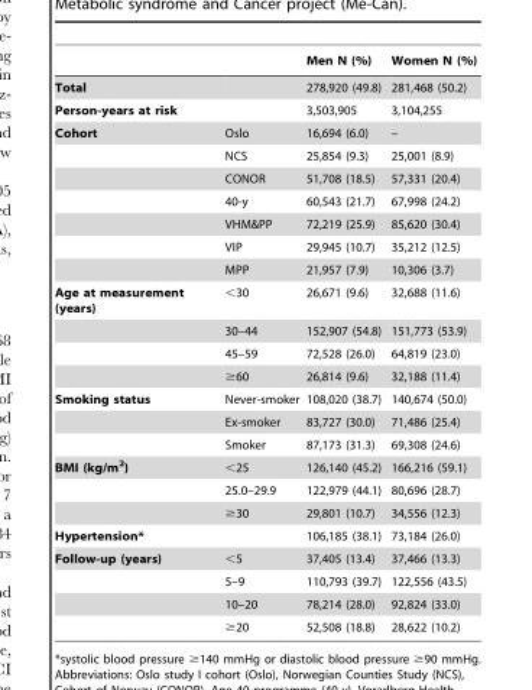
<table><thead><tr><td></td><td></td><td>Men N (%)</td><td>Women N (%)</td></tr></thead><tbody><tr><td>Total</td><td></td><td>278,920 (49.8)</td><td>281,468 (50.2)</td></tr><tr><td>Person-years at risk</td><td></td><td>3,503,905</td><td>3,104,255</td></tr><tr><td rowspan="7">Cohort</td><td>Oslo</td><td>16,694 (6.0)</td><td>–</td></tr><tr><td>NCS</td><td>25,854 (9.3)</td><td>25,001 (8.9)</td></tr><tr><td>CONOR</td><td>51,708 (18.5)</td><td>57,331 (20.4)</td></tr><tr><td>40-y</td><td>60,543 (21.7)</td><td>67,998 (24.2)</td></tr><tr><td>VHM&amp;PP</td><td>72,219 (25.9)</td><td>85,620 (30.4)</td></tr><tr><td>VIP</td><td>29,945 (10.7)</td><td>35,212 (12.5)</td></tr><tr><td>MPP</td><td>21,957 (7.9)</td><td>10,306 (3.7)</td></tr><tr><td rowspan="4">Age at measurement (years)</td><td>&lt;30</td><td>26,671 (9.6)</td><td>32,688 (11.6)</td></tr><tr><td>30–44</td><td>152,907 (54.8)</td><td>151,773 (53.9)</td></tr><tr><td>45–59</td><td>72,528 (26.0)</td><td>64,819 (23.0)</td></tr><tr><td>≥60</td><td>26,814 (9.6)</td><td>32,188 (11.4)</td></tr><tr><td rowspan="3">Smoking status</td><td>Never-smoker</td><td>108,020 (38.7)</td><td>140,674 (50.0)</td></tr><tr><td>Ex-smoker</td><td>83,727 (30.0)</td><td>71,486 (25.4)</td></tr><tr><td>Smoker</td><td>87,173 (31.3)</td><td>69,308 (24.6)</td></tr><tr><td rowspan="3">BMI (kg/m<sup>2</sup>)</td><td>&lt;25</td><td>126,140 (45.2)</td><td>166,216 (59.1)</td></tr><tr><td>25.0–29.9</td><td>122,979 (44.1)</td><td>80,696 (28.7)</td></tr><tr><td>≥30</td><td>29,801 (10.7)</td><td>34,556 (12.3)</td></tr><tr><td>Hypertension*</td><td></td><td>106,185 (38.1)</td><td>73,184 (26.0)</td></tr><tr><td rowspan="4">Follow-up (years)</td><td>&lt;5</td><td>37,405 (13.4)</td><td>37,466 (13.3)</td></tr><tr><td>5–9</td><td>110,793 (39.7)</td><td>122,556 (43.5)</td></tr><tr><td>10–20</td><td>78,214 (28.0)</td><td>92,824 (33.0)</td></tr><tr><td>≥20</td><td>52,508 (18.8)</td><td>28,622 (10.2)</td></tr></tbody></table>